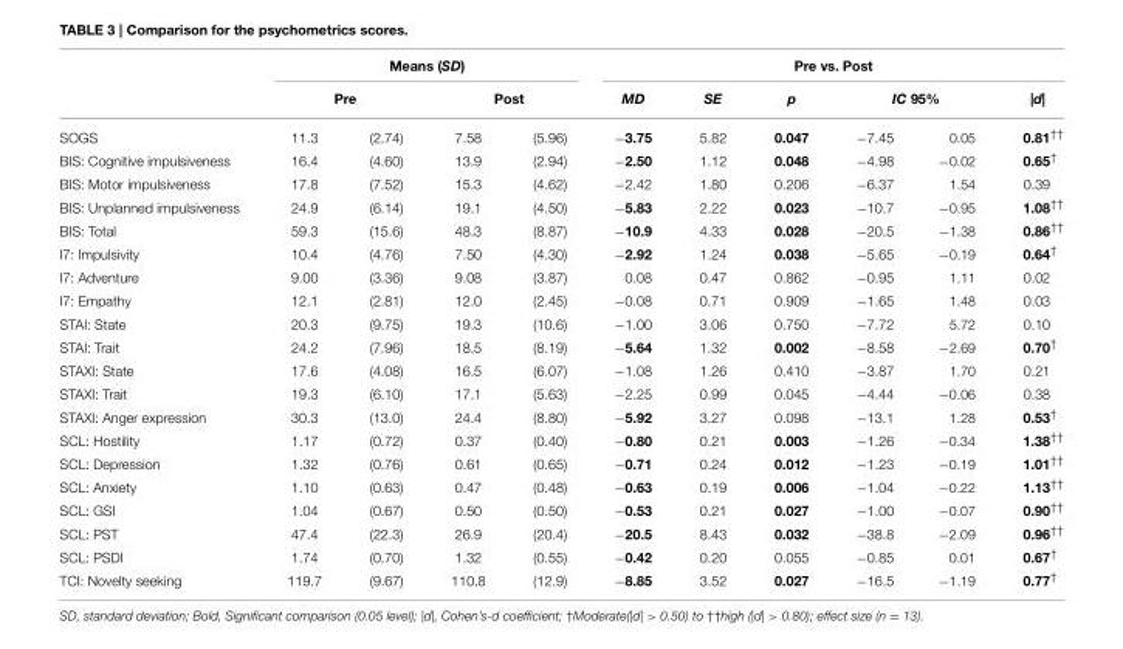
<table><thead><tr><td rowspan="3">SOGS</td><td colspan="4">Means (SD)</td><td colspan="6">Pre vs. Post</td></tr><tr><td colspan="2">Pre</td><td colspan="2">Post</td><td rowspan="2">MD −3.75</td><td rowspan="2">SE 5.82</td><td rowspan="2">p 0.047</td><td colspan="2">IC 95%</td><td rowspan="2">|d| 0.81<sup>††</sup></td></tr><tr><td>11.3</td><td>(2.74)</td><td>7.58</td><td>(5.96)</td><td>−7.45</td><td>0.05</td></tr></thead><tbody><tr><td>BIS: Cognitive impulsiveness</td><td>16.4</td><td>(4.60)</td><td>13.9</td><td>(2.94)</td><td>−2.50</td><td>1.12</td><td>0.048</td><td>−4.98</td><td>−0.02</td><td>0.65<sup>†</sup></td></tr><tr><td>BIS: Motor impulsiveness</td><td>17.8</td><td>(7.52)</td><td>15.3</td><td>(4.62)</td><td>−2.42</td><td>1.80</td><td>0.206</td><td>−6.37</td><td>1.54</td><td>0.39</td></tr><tr><td>BIS: Unplanned impulsiveness</td><td>24.9</td><td>(6.14)</td><td>19.1</td><td>(4.50)</td><td>−5.83</td><td>2.22</td><td>0.023</td><td>−10.7</td><td>−0.95</td><td>1.08<sup>††</sup></td></tr><tr><td>BIS: Total</td><td>59.3</td><td>(15.6)</td><td>48.3</td><td>(8.87)</td><td>−10.9</td><td>4.33</td><td>0.028</td><td>−20.5</td><td>−1.38</td><td>0.86<sup>††</sup></td></tr><tr><td>I7: Impulsivity</td><td>10.4</td><td>(4.76)</td><td>7.50</td><td>(4.30)</td><td>−2.92</td><td>1.24</td><td>0.038</td><td>−5.65</td><td>−0.19</td><td>0.64<sup>†</sup></td></tr><tr><td>I7: Adventure</td><td>9.00</td><td>(3.36)</td><td>9.08</td><td>(3.87)</td><td>0.08</td><td>0.47</td><td>0.862</td><td>−0.95</td><td>1.11</td><td>0.02</td></tr><tr><td>I7: Empathy</td><td>12.1</td><td>(2.81)</td><td>12.0</td><td>(2.45)</td><td>−0.08</td><td>0.71</td><td>0.909</td><td>−1.65</td><td>1.48</td><td>0.03</td></tr><tr><td>STAI: State</td><td>20.3</td><td>(9.75)</td><td>19.3</td><td>(10.6)</td><td>−1.00</td><td>3.06</td><td>0.750</td><td>−7.72</td><td>5.72</td><td>0.10</td></tr><tr><td>STAI: Trait</td><td>24.2</td><td>(7.96)</td><td>18.5</td><td>(8.19)</td><td>−5.64</td><td>1.32</td><td>0.002</td><td>−8.58</td><td>−2.69</td><td>0.70<sup>†</sup></td></tr><tr><td>STAXI: State</td><td>17.6</td><td>(4.08)</td><td>16.5</td><td>(6.07)</td><td>−1.08</td><td>1.26</td><td>0.410</td><td>−3.87</td><td>1.70</td><td>0.21</td></tr><tr><td>STAXI: Trait</td><td>19.3</td><td>(6.10)</td><td>17.1</td><td>(5.63)</td><td>−2.25</td><td>0.99</td><td>0.045</td><td>−4.44</td><td>−0.06</td><td>0.38</td></tr><tr><td>STAXI: Anger expression</td><td>30.3</td><td>(13.0)</td><td>24.4</td><td>(8.80)</td><td>−5.92</td><td>3.27</td><td>0.098</td><td>−13.1</td><td>1.28</td><td>0.53<sup>†</sup></td></tr><tr><td>SCL: Hostility</td><td>1.17</td><td>(0.72)</td><td>0.37</td><td>(0.40)</td><td>−0.80</td><td>0.21</td><td>0.003</td><td>−1.26</td><td>−0.34</td><td>1.38<sup>††</sup></td></tr><tr><td>SCL: Depression</td><td>1.32</td><td>(0.76)</td><td>0.61</td><td>(0.65)</td><td>−0.71</td><td>0.24</td><td>0.012</td><td>−1.23</td><td>−0.19</td><td>1.01<sup>††</sup></td></tr><tr><td>SCL: Anxiety</td><td>1.10</td><td>(0.63)</td><td>0.47</td><td>(0.48)</td><td>−0.63</td><td>0.19</td><td>0.006</td><td>−1.04</td><td>−0.22</td><td>1.13<sup>††</sup></td></tr><tr><td>SCL: GSI</td><td>1.04</td><td>(0.67)</td><td>0.50</td><td>(0.50)</td><td>−0.53</td><td>0.21</td><td>0.027</td><td>−1.00</td><td>−0.07</td><td>0.90<sup>††</sup></td></tr><tr><td>SCL: PST</td><td>47.4</td><td>(22.3)</td><td>26.9</td><td>(20.4)</td><td>−20.5</td><td>8.43</td><td>0.032</td><td>−38.8</td><td>−2.09</td><td>0.96<sup>††</sup></td></tr><tr><td>SCL: PSDI</td><td>1.74</td><td>(0.70)</td><td>1.32</td><td>(0.55)</td><td>−0.42</td><td>0.20</td><td>0.055</td><td>−0.85</td><td>0.01</td><td>0.67<sup>†</sup></td></tr><tr><td>TCI: Novelty seeking</td><td>119.7</td><td>(9.67)</td><td>110.8</td><td>(12.9)</td><td>−8.85</td><td>3.52</td><td>0.027</td><td>−16.5</td><td>−1.19</td><td>0.77<sup>†</sup></td></tr></tbody></table>